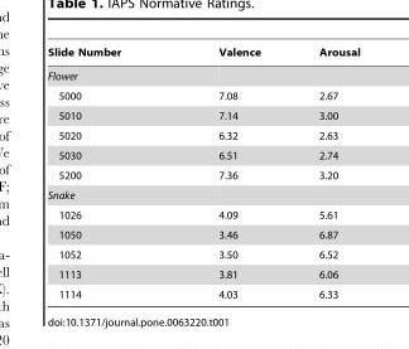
<table><thead><tr><td>Slide Number</td><td>Valence</td><td>Arousal</td></tr></thead><tbody><tr><td colspan="3">Flower</td></tr><tr><td>5000</td><td>7.08</td><td>2.67</td></tr><tr><td>5010</td><td>7.14</td><td>3.00</td></tr><tr><td>5020</td><td>6.32</td><td>2.63</td></tr><tr><td>5030</td><td>6.51</td><td>2.74</td></tr><tr><td>5200</td><td>7.36</td><td>3.20</td></tr><tr><td colspan="3">Snake</td></tr><tr><td>1026</td><td>4.09</td><td>5.61</td></tr><tr><td>1050</td><td>3.46</td><td>6.87</td></tr><tr><td>1052</td><td>3.50</td><td>6.52</td></tr><tr><td>1113</td><td>3.81</td><td>6.06</td></tr><tr><td>1114</td><td>4.03</td><td>6.33</td></tr></tbody></table>